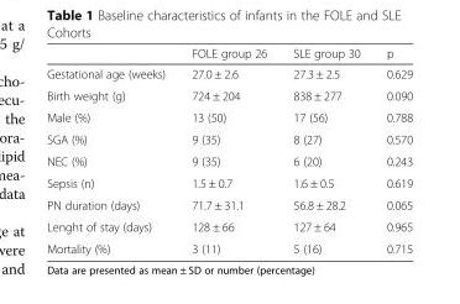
<table><thead><tr><td></td><td>FOLE group 26</td><td>SLE group 30</td><td>p</td></tr></thead><tbody><tr><td>Gestational age (weeks)</td><td>27.0 ± 2.6</td><td>27.3 ± 2.5</td><td>0.629</td></tr><tr><td>Birth weight (g)</td><td>724 ± 204</td><td>838 ± 277</td><td>0.090</td></tr><tr><td>Male (%)</td><td>13 (50)</td><td>17 (56)</td><td>0.788</td></tr><tr><td>SGA (%)</td><td>9 (35)</td><td>8 (27)</td><td>0.570</td></tr><tr><td>NEC (%)</td><td>9 (35)</td><td>6 (20)</td><td>0.243</td></tr><tr><td>Sepsis (n)</td><td>1.5 ± 0.7</td><td>1.6 ± 0.5</td><td>0.619</td></tr><tr><td>PN duration (days)</td><td>71.7 ± 31.1</td><td>56.8 ± 28.2</td><td>0.065</td></tr><tr><td>Lenght of stay (days)</td><td>128 ± 66</td><td>127 ± 64</td><td>0.965</td></tr><tr><td>Mortality (%)</td><td>3 (11)</td><td>5 (16)</td><td>0.715</td></tr></tbody></table>